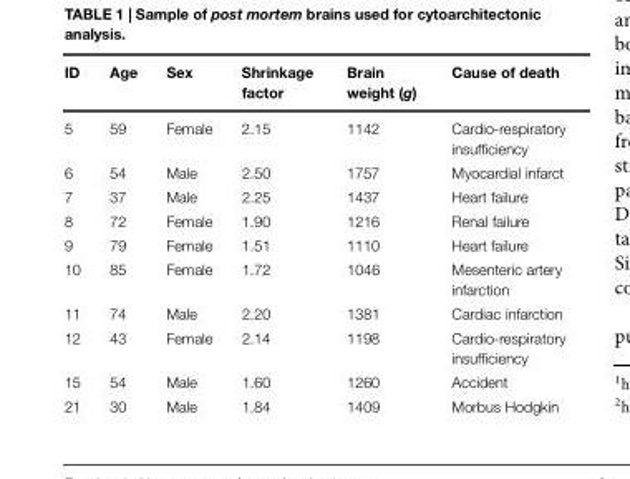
<table><thead><tr><td>ID</td><td>Age</td><td>Sex</td><td>Shrinkage factor</td><td>Brain weight (g)</td><td>Cause of death</td></tr></thead><tbody><tr><td>5</td><td>59</td><td>Female</td><td>2.15</td><td>1142</td><td>Cardio-respiratory insufficiency</td></tr><tr><td>6</td><td>54</td><td>Male</td><td>2.50</td><td>1757</td><td>Myocardial infarct</td></tr><tr><td>7</td><td>37</td><td>Male</td><td>2.25</td><td>1437</td><td>Heart failure</td></tr><tr><td>8</td><td>72</td><td>Female</td><td>1.90</td><td>1216</td><td>Renal failure</td></tr><tr><td>9</td><td>79</td><td>Female</td><td>1.51</td><td>1110</td><td>Heart failure</td></tr><tr><td>10</td><td>85</td><td>Female</td><td>1.72</td><td>1046</td><td>Mesenteric artery infarction</td></tr><tr><td>11</td><td>74</td><td>Male</td><td>2.20</td><td>1381</td><td>Cardiac infarction</td></tr><tr><td>12</td><td>43</td><td>Female</td><td>2.14</td><td>1198</td><td>Cardio-respiratory insufficiency</td></tr><tr><td>15</td><td>54</td><td>Male</td><td>1.60</td><td>1260</td><td>Accident</td></tr><tr><td>21</td><td>30</td><td>Male</td><td>1.84</td><td>1409</td><td>Morbus Hodgkin</td></tr></tbody></table>